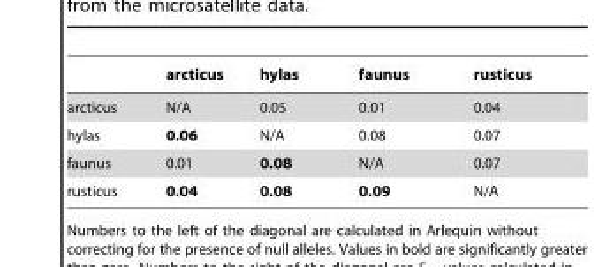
<table><thead><tr><td></td><td>arcticus</td><td>hylas</td><td>faunus</td><td>rusticus</td></tr></thead><tbody><tr><td>arcticus</td><td>N/A</td><td>0.05</td><td>0.01</td><td>0.04</td></tr><tr><td>hylas</td><td>0.06</td><td>N/A</td><td>0.08</td><td>0.07</td></tr><tr><td>faunus</td><td>0.01</td><td>0.08</td><td>N/A</td><td>0.07</td></tr><tr><td>rusticus</td><td>0.04</td><td>0.08</td><td>0.09</td><td>N/A</td></tr></tbody></table>